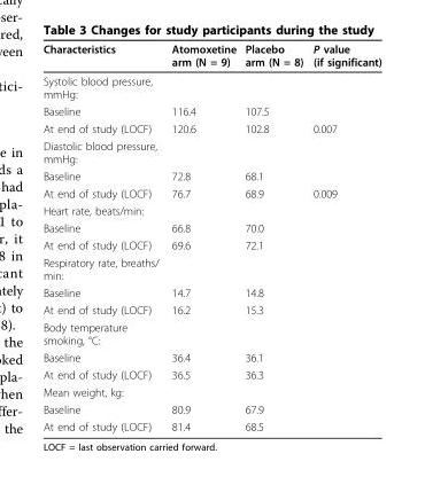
<table><thead><tr><td>Characteristics</td><td>Atomoxetine arm (N = 9)</td><td>Placebo arm (N = 8)</td><td>P value (if significant)</td></tr></thead><tbody><tr><td colspan="4">Systolic blood pressure, mmHg:</td></tr><tr><td>Baseline</td><td>116.4</td><td>107.5</td><td></td></tr><tr><td>At end of study (LOCF)</td><td>120.6</td><td>102.8</td><td>0.007</td></tr><tr><td colspan="4">Diastolic blood pressure, mmHg:</td></tr><tr><td>Baseline</td><td>72.8</td><td>68.1</td><td></td></tr><tr><td>At end of study (LOCF)</td><td>76.7</td><td>68.9</td><td>0.009</td></tr><tr><td colspan="4">Heart rate, beats/min:</td></tr><tr><td>Baseline</td><td>66.8</td><td>70.0</td><td></td></tr><tr><td>At end of study (LOCF)</td><td>69.6</td><td>72.1</td><td></td></tr><tr><td colspan="4">Respiratory rate, breaths/ min:</td></tr><tr><td>Baseline</td><td>14.7</td><td>14.8</td><td></td></tr><tr><td>At end of study (LOCF)</td><td>16.2</td><td>15.3</td><td></td></tr><tr><td colspan="4">Body temperature smoking, °C:</td></tr><tr><td>Baseline</td><td>36.4</td><td>36.1</td><td></td></tr><tr><td>At end of study (LOCF)</td><td>36.5</td><td>36.3</td><td></td></tr><tr><td colspan="4">Mean weight, kg:</td></tr><tr><td>Baseline</td><td>80.9</td><td>67.9</td><td></td></tr><tr><td>At end of study (LOCF)</td><td>81.4</td><td>68.5</td><td></td></tr></tbody></table>